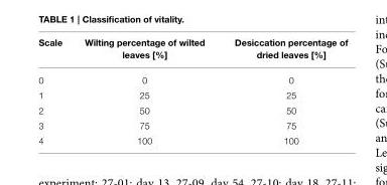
<table><thead><tr><td>Scale</td><td>Wilting percentage of wilted leaves [%]</td><td>Desiccation percentage of dried leaves [%]</td></tr></thead><tbody><tr><td>0</td><td>0</td><td>0</td></tr><tr><td>1</td><td>25</td><td>25</td></tr><tr><td>2</td><td>50</td><td>50</td></tr><tr><td>3</td><td>75</td><td>75</td></tr><tr><td>4</td><td>100</td><td>100</td></tr></tbody></table>